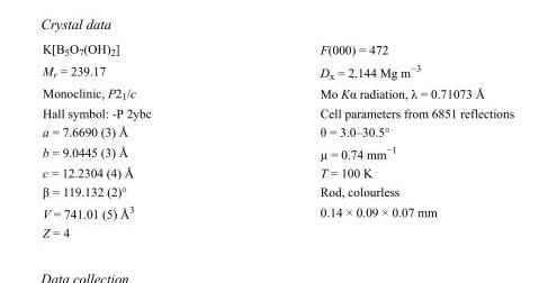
<table><tbody><tr><td>K[B<sub>5</sub>O<sub>7</sub>(OH)<sub>2</sub>]</td><td>F(000) = 472</td></tr><tr><td>M<sub>r</sub> = 239.17</td><td>D<sub>x</sub> = 2.144 Mg m<sup>−3</sup></td></tr><tr><td>Monoclinic, P2<sub>1</sub>/c</td><td>Mo Kα radiation, λ = 0.71073 Å</td></tr><tr><td>Hall symbol: -P 2ybc</td><td>Cell parameters from 6851 reflections</td></tr><tr><td>a = 7.6690 (3) Å</td><td>θ = 3.0–30.5°</td></tr><tr><td>b = 9.0445 (3) Å</td><td>µ = 0.74 mm<sup>−1</sup></td></tr><tr><td>c = 12.2304 (4) Å</td><td>T = 100 K</td></tr><tr><td>β = 119.132 (2)°</td><td>Rod, colourless</td></tr><tr><td>V = 741.01 (5) Å<sup>3</sup></td><td>0.14 × 0.09 × 0.07 mm</td></tr><tr><td>Z = 4</td><td></td></tr></tbody></table>